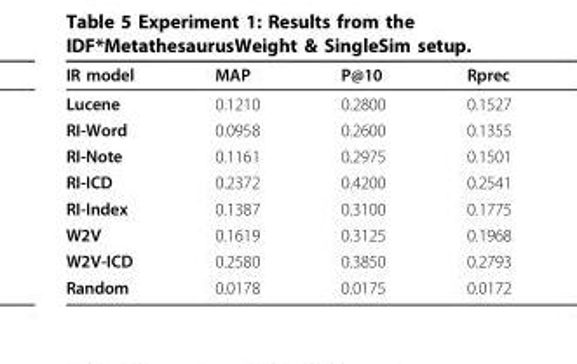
<table><thead><tr><td>IR model</td><td>MAP</td><td>P@10</td><td>Rprec</td></tr></thead><tbody><tr><td>Lucene</td><td>0.1210</td><td>0.2800</td><td>0.1527</td></tr><tr><td>RI-Word</td><td>0.0958</td><td>0.2600</td><td>0.1355</td></tr><tr><td>RI-Note</td><td>0.1161</td><td>0.2975</td><td>0.1501</td></tr><tr><td>RI-ICD</td><td>0.2372</td><td>0.4200</td><td>0.2541</td></tr><tr><td>RI-Index</td><td>0.1387</td><td>0.3100</td><td>0.1775</td></tr><tr><td>W2V</td><td>0.1619</td><td>0.3125</td><td>0.1968</td></tr><tr><td>W2V-ICD</td><td>0.2580</td><td>0.3850</td><td>0.2793</td></tr><tr><td>Random</td><td>0.0178</td><td>0.0175</td><td>0.0172</td></tr></tbody></table>